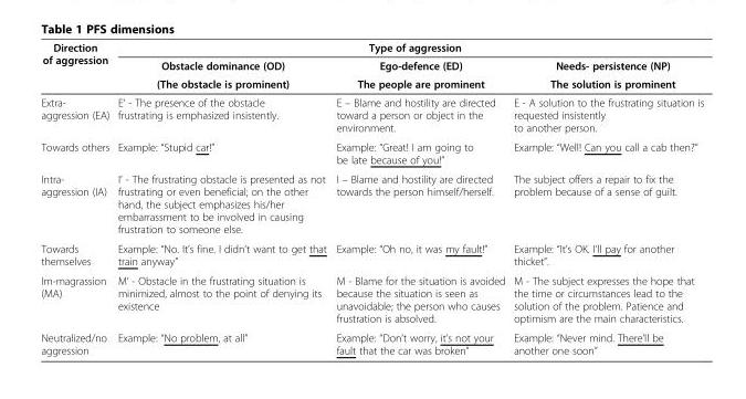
<table><thead><tr><td rowspan="3">Direction of aggression</td><td colspan="3">Type of aggression</td></tr><tr><td rowspan="2">Obstacle dominance (OD) (The obstacle is prominent)</td><td rowspan="2">Ego-defence (ED) The people are prominent</td><td rowspan="2">Needs- persistence (NP) The solution is prominent</td></tr><tr></tr></thead><tbody><tr><td>Extra- aggression (EA)</td><td>E’ - The presence of the obstacle frustrating is emphasized insistently.</td><td>E – Blame and hostility are directed toward a person or object in the environment.</td><td>E - A solution to the frustrating situation is requested insistently to another person.</td></tr><tr><td>Towards others</td><td>Example: “Stupid car!”</td><td>Example: “Great! I am going to be late because of you!”</td><td>Example: “Well! Can you call a cab then?”</td></tr><tr><td>Intra- aggression (IA)</td><td>I’ - The frustrating obstacle is presented as not frustrating or even beneficial; on the other hand, the subject emphasizes his/her embarrassment to be involved in causing frustration to someone else.</td><td>I – Blame and hostility are directed towards the person himself/herself.</td><td>The subject offers a repair to fix the problem because of a sense of guilt.</td></tr><tr><td>Towards themselves</td><td>Example: “No. It’s fine. I didn’t want to get that train anyway”</td><td>Example: “Oh no, it was my fault!”</td><td>Example: “It’s OK. I’ll pay for another thicket”.</td></tr><tr><td>Im-magrassion (MA)</td><td>M’ - Obstacle in the frustrating situation is minimized, almost to the point of denying its existence</td><td>M - Blame for the situation is avoided because the situation is seen as unavoidable; the person who causes frustration is absolved.</td><td>M - The subject expresses the hope that the time or circumstances lead to the solution of the problem. Patience and optimism are the main characteristics.</td></tr><tr><td>Neutralized/no aggression</td><td>Example: “No problem, at all”</td><td>Example: “Don’t worry, it’s not your fault that the car was broken”</td><td>Example: “Never mind. There’ll be another one soon”</td></tr></tbody></table>